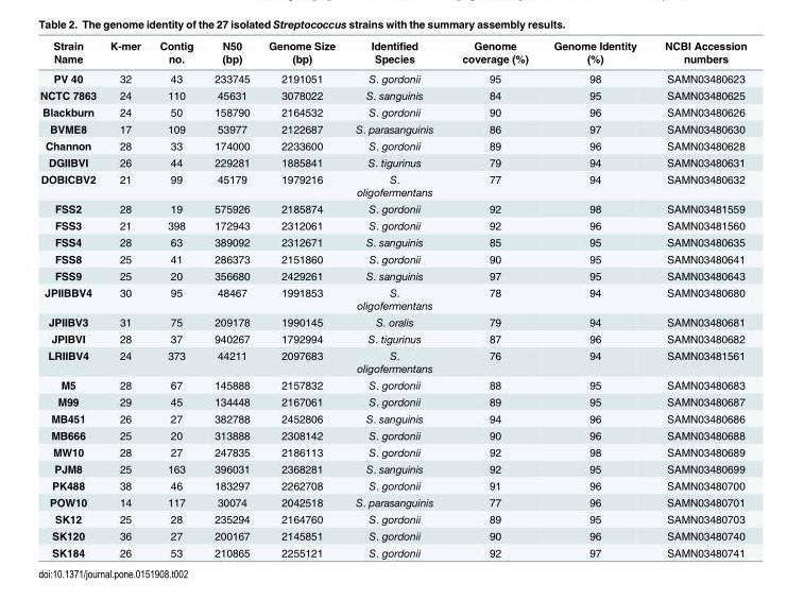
<table><thead><tr><td>Strain Name</td><td>K-mer</td><td>Contig no.</td><td>N50 (bp)</td><td>Genome Size (bp)</td><td>Identified Species</td><td>Genome coverage (%)</td><td>Genome Identity (%)</td><td>NCBI Accession numbers</td></tr></thead><tbody><tr><td>PV 40</td><td>32</td><td>43</td><td>233745</td><td>2191051</td><td>S. gordonii</td><td>95</td><td>98</td><td>SAMN03480623</td></tr><tr><td>NCTC 7863</td><td>24</td><td>110</td><td>45631</td><td>3078022</td><td>S. sanguinis</td><td>84</td><td>95</td><td>SAMN03480625</td></tr><tr><td>Blackburn</td><td>24</td><td>50</td><td>158790</td><td>2164532</td><td>S. gordonii</td><td>90</td><td>96</td><td>SAMN03480626</td></tr><tr><td>BVME8</td><td>17</td><td>109</td><td>53977</td><td>2122687</td><td>S. parasanguinis</td><td>86</td><td>97</td><td>SAMN03480630</td></tr><tr><td>Channon</td><td>28</td><td>33</td><td>174000</td><td>2233600</td><td>S. gordonii</td><td>89</td><td>96</td><td>SAMN03480628</td></tr><tr><td>DGIIBVI</td><td>26</td><td>44</td><td>229281</td><td>1885841</td><td>S. tigurinus</td><td>79</td><td>94</td><td>SAMN03480631</td></tr><tr><td>DOBICBV2</td><td>21</td><td>99</td><td>45179</td><td>1979216</td><td>S. oligofermentans</td><td>77</td><td>94</td><td>SAMN03480632</td></tr><tr><td>FSS2</td><td>28</td><td>19</td><td>575926</td><td>2185874</td><td>S. gordonii</td><td>92</td><td>98</td><td>SAMN03481559</td></tr><tr><td>FSS3</td><td>21</td><td>398</td><td>172943</td><td>2312061</td><td>S. gordonii</td><td>92</td><td>96</td><td>SAMN03481560</td></tr><tr><td>FSS4</td><td>28</td><td>63</td><td>389092</td><td>2312671</td><td>S. sanguinis</td><td>85</td><td>95</td><td>SAMN03480635</td></tr><tr><td>FSS8</td><td>25</td><td>41</td><td>286373</td><td>2151860</td><td>S. gordonii</td><td>90</td><td>95</td><td>SAMN03480641</td></tr><tr><td>FSS9</td><td>25</td><td>20</td><td>356680</td><td>2429261</td><td>S. sanguinis</td><td>97</td><td>95</td><td>SAMN03480643</td></tr><tr><td>JPIIBBV4</td><td>30</td><td>95</td><td>48467</td><td>1991853</td><td>S. oligofermentans</td><td>78</td><td>94</td><td>SAMN03480680</td></tr><tr><td>JPIIBV3</td><td>31</td><td>75</td><td>209178</td><td>1990145</td><td>S. oralis</td><td>79</td><td>94</td><td>SAMN03480681</td></tr><tr><td>JPIBVI</td><td>28</td><td>37</td><td>940267</td><td>1792994</td><td>S. tigurinus</td><td>87</td><td>96</td><td>SAMN03480682</td></tr><tr><td>LRIIBV4</td><td>24</td><td>373</td><td>44211</td><td>2097683</td><td>S. oligofermentans</td><td>76</td><td>94</td><td>SAMN03481561</td></tr><tr><td>M5</td><td>28</td><td>67</td><td>145888</td><td>2157832</td><td>S. gordonii</td><td>88</td><td>95</td><td>SAMN03480683</td></tr><tr><td>M99</td><td>29</td><td>45</td><td>134448</td><td>2167061</td><td>S. gordonii</td><td>89</td><td>95</td><td>SAMN03480687</td></tr><tr><td>MB451</td><td>26</td><td>27</td><td>382788</td><td>2452806</td><td>S. sanguinis</td><td>94</td><td>96</td><td>SAMN03480686</td></tr><tr><td>MB666</td><td>25</td><td>20</td><td>313888</td><td>2308142</td><td>S. gordonii</td><td>90</td><td>96</td><td>SAMN03480688</td></tr><tr><td>MW10</td><td>28</td><td>27</td><td>247835</td><td>2186113</td><td>S. gordonii</td><td>92</td><td>98</td><td>SAMN03480689</td></tr><tr><td>PJM8</td><td>25</td><td>163</td><td>396031</td><td>2368281</td><td>S. sanguinis</td><td>92</td><td>95</td><td>SAMN03480699</td></tr><tr><td>PK488</td><td>38</td><td>46</td><td>183297</td><td>2262708</td><td>S. gordonii</td><td>91</td><td>96</td><td>SAMN03480700</td></tr><tr><td>POW10</td><td>14</td><td>117</td><td>30074</td><td>2042518</td><td>S. parasanguinis</td><td>77</td><td>96</td><td>SAMN03480701</td></tr><tr><td>SK12</td><td>25</td><td>28</td><td>235294</td><td>2164760</td><td>S. gordonii</td><td>89</td><td>95</td><td>SAMN03480703</td></tr><tr><td>SK120</td><td>36</td><td>27</td><td>200167</td><td>2145851</td><td>S. gordonii</td><td>90</td><td>96</td><td>SAMN03480740</td></tr><tr><td>SK184</td><td>26</td><td>53</td><td>210865</td><td>2255121</td><td>S. gordonii</td><td>92</td><td>97</td><td>SAMN03480741</td></tr></tbody></table>